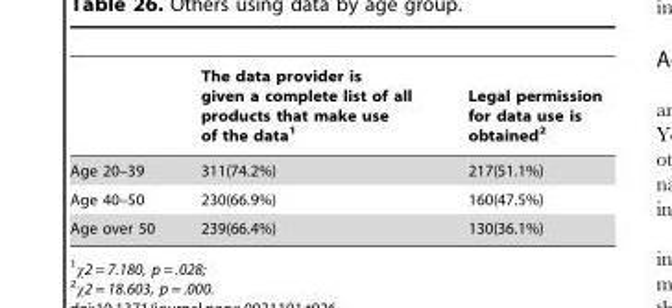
<table><thead><tr><td></td><td>The data provider is given a complete list of all products that make use of the data<sup>1</sup></td><td>Legal permission for data use is obtained<sup>2</sup></td></tr></thead><tbody><tr><td>Age 20–39</td><td>311(74.2%)</td><td>217(51.1%)</td></tr><tr><td>Age 40–50</td><td>230(66.9%)</td><td>160(47.5%)</td></tr><tr><td>Age over 50</td><td>239(66.4%)</td><td>130(36.1%)</td></tr></tbody></table>